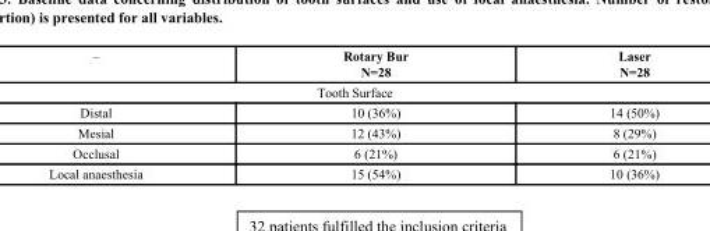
<table><tbody><tr><td>–</td><td>Rotary Bur N=28</td><td>Laser N=28</td></tr><tr><td colspan="3">Tooth Surface</td></tr><tr><td>Distal</td><td>10 (36%)</td><td>14 (50%)</td></tr><tr><td>Mesial</td><td>12 (43%)</td><td>8 (29%)</td></tr><tr><td>Occlusal</td><td>6 (21%)</td><td>6 (21%)</td></tr><tr><td>Local anaesthesia</td><td>15 (54%)</td><td>10 (36%)</td></tr></tbody></table>